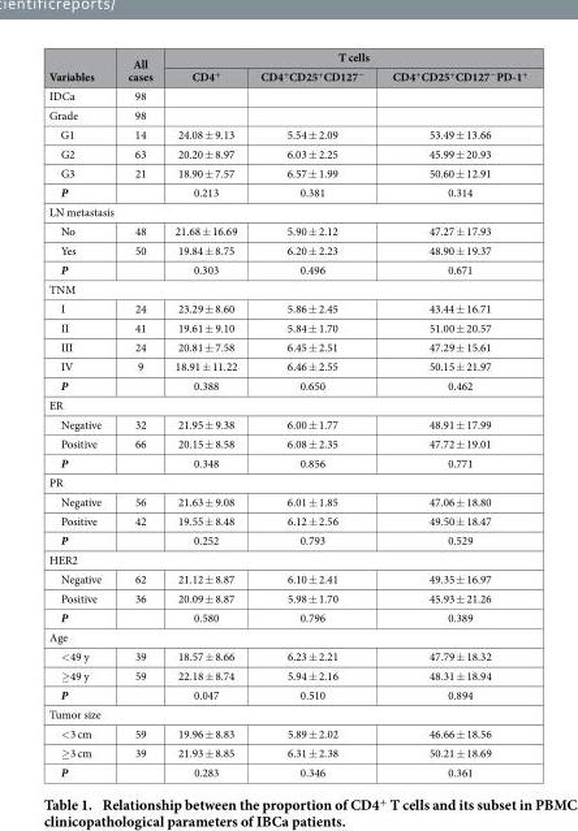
<table><thead><tr><td rowspan="2">Variables</td><td rowspan="2">All cases</td><td colspan="3">T cells</td></tr><tr><td>CD4<sup>+</sup></td><td>CD4<sup>+</sup>CD25<sup>+</sup>CD127<sup>−</sup></td><td>CD4<sup>+</sup>CD25<sup>+</sup>CD127<sup>−</sup>PD-1<sup>+</sup></td></tr></thead><tbody><tr><td>IDCa</td><td>98</td><td></td><td></td><td></td></tr><tr><td>Grade</td><td>98</td><td></td><td></td><td></td></tr><tr><td>G1</td><td>14</td><td>24.08 ± 9.13</td><td>5.54 ± 2.09</td><td>53.49 ± 13.66</td></tr><tr><td>G2</td><td>63</td><td>20.20 ± 8.97</td><td>6.03 ± 2.25</td><td>45.99 ± 20.93</td></tr><tr><td>G3</td><td>21</td><td>18.90 ± 7.57</td><td>6.57 ± 1.99</td><td>50.60 ± 12.91</td></tr><tr><td>P</td><td></td><td>0.213</td><td>0.381</td><td>0.314</td></tr><tr><td colspan="5">LN metastasis</td></tr><tr><td>No</td><td>48</td><td>21.68 ± 16.69</td><td>5.90 ± 2.12</td><td>47.27 ± 17.93</td></tr><tr><td>Yes</td><td>50</td><td>19.84 ± 8.75</td><td>6.20 ± 2.23</td><td>48.90 ± 19.37</td></tr><tr><td>P</td><td></td><td>0.303</td><td>0.496</td><td>0.671</td></tr><tr><td colspan="5">TNM</td></tr><tr><td>I</td><td>24</td><td>23.29 ± 8.60</td><td>5.86 ± 2.45</td><td>43.44 ± 16.71</td></tr><tr><td>II</td><td>41</td><td>19.61 ± 9.10</td><td>5.84 ± 1.70</td><td>51.00 ± 20.57</td></tr><tr><td>III</td><td>24</td><td>20.81 ± 7.58</td><td>6.45 ± 2.51</td><td>47.29 ± 15.61</td></tr><tr><td>IV</td><td>9</td><td>18.91 ± 11.22</td><td>6.46 ± 2.55</td><td>50.15 ± 21.97</td></tr><tr><td>P</td><td></td><td>0.388</td><td>0.650</td><td>0.462</td></tr><tr><td colspan="5">ER</td></tr><tr><td>Negative</td><td>32</td><td>21.95 ± 9.38</td><td>6.00 ± 1.77</td><td>48.91 ± 17.99</td></tr><tr><td>Positive</td><td>66</td><td>20.15 ± 8.58</td><td>6.08 ± 2.35</td><td>47.72 ± 19.01</td></tr><tr><td>P</td><td></td><td>0.348</td><td>0.856</td><td>0.771</td></tr><tr><td colspan="5">PR</td></tr><tr><td>Negative</td><td>56</td><td>21.63 ± 9.08</td><td>6.01 ± 1.85</td><td>47.06 ± 18.80</td></tr><tr><td>Positive</td><td>42</td><td>19.55 ± 8.48</td><td>6.12 ± 2.56</td><td>49.50 ± 18.47</td></tr><tr><td>P</td><td></td><td>0.252</td><td>0.793</td><td>0.529</td></tr><tr><td colspan="5">HER2</td></tr><tr><td>Negative</td><td>62</td><td>21.12 ± 8.87</td><td>6.10 ± 2.41</td><td>49.35 ± 16.97</td></tr><tr><td>Positive</td><td>36</td><td>20.09 ± 8.87</td><td>5.98 ± 1.70</td><td>45.93 ± 21.26</td></tr><tr><td>P</td><td></td><td>0.580</td><td>0.796</td><td>0.389</td></tr><tr><td colspan="5">Age</td></tr><tr><td>&lt; 49 y</td><td>39</td><td>18.57 ± 8.66</td><td>6.23 ± 2.21</td><td>47.79 ± 18.32</td></tr><tr><td>≥ 49 y</td><td>59</td><td>22.18 ± 8.74</td><td>5.94 ± 2.16</td><td>48.31 ± 18.94</td></tr><tr><td>P</td><td></td><td>0.047</td><td>0.510</td><td>0.894</td></tr><tr><td colspan="5">Tumor size</td></tr><tr><td>&lt; 3 cm</td><td>59</td><td>19.96 ± 8.83</td><td>5.89 ± 2.02</td><td>46.66 ± 18.56</td></tr><tr><td>≥ 3 cm</td><td>39</td><td>21.93 ± 8.85</td><td>6.31 ± 2.38</td><td>50.21 ± 18.69</td></tr><tr><td>P</td><td></td><td>0.283</td><td>0.346</td><td>0.361</td></tr></tbody></table>